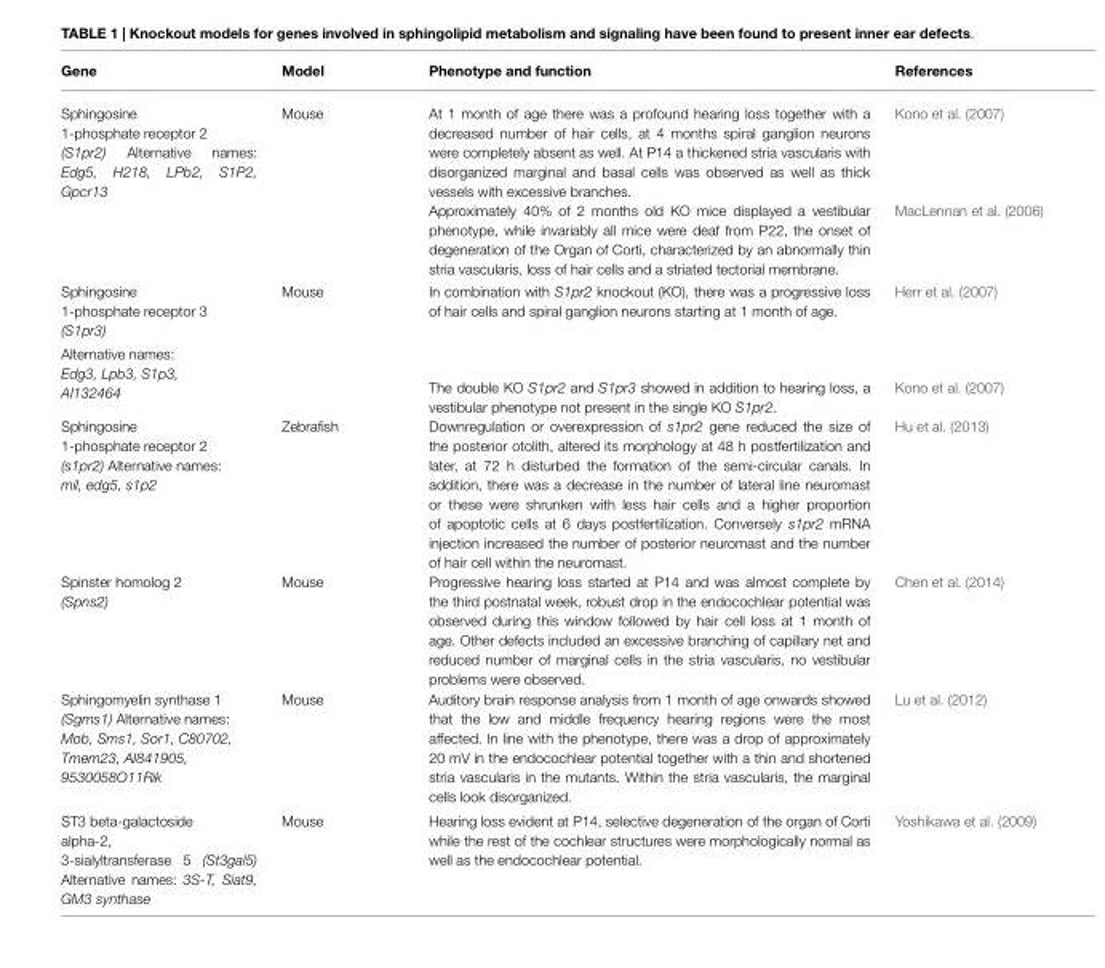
<table><thead><tr><td>Gene</td><td>Model</td><td>Phenotype and function</td><td>References</td></tr></thead><tbody><tr><td rowspan="2">Sphingosine 1-phosphate receptor 2 (S1pr2) Alternative names: Edg5, H218, LPb2, S1P2, Gpcr13</td><td>Mouse</td><td>At 1 month of age there was a profound hearing loss together with a decreased number of hair cells, at 4 months spiral ganglion neurons were completely absent as well. At P14 a thickened stria vascularis with disorganized marginal and basal cells was observed as well as thick vessels with excessive branches.</td><td>Kono et al. (2007)</td></tr><tr><td></td><td>Approximately 40% of 2 months old KO mice displayed a vestibular phenotype, while invariably all mice were deaf from P22, the onset of degeneration of the Organ of Corti, characterized by an abnormally thin stria vascularis, loss of hair cells and a striated tectorial membrane.</td><td>MacLennan et al. (2006)</td></tr><tr><td rowspan="2">Sphingosine 1-phosphate receptor 3 (S1pr3) Alternative names: Edg3, Lpb3, S1p3, AI132464</td><td>Mouse</td><td>In combination with S1pr2 knockout (KO), there was a progressive loss of hair cells and spiral ganglion neurons starting at 1 month of age.</td><td>Herr et al. (2007)</td></tr><tr><td></td><td>The double KO S1pr2 and S1pr3 showed in addition to hearing loss, a vestibular phenotype not present in the single KO S1pr2.</td><td>Kono et al. (2007)</td></tr><tr><td>Sphingosine 1-phosphate receptor 2 (s1pr2) Alternative names: mil, edg5, s1p2</td><td>Zebrafish</td><td>Downregulation or overexpression of s1pr2 gene reduced the size of the posterior otolith, altered its morphology at 48 h postfertilization and later, at 72 h disturbed the formation of the semi-circular canals. In addition, there was a decrease in the number of lateral line neuromast or these were shrunken with less hair cells and a higher proportion of apoptotic cells at 6 days postfertilization. Conversely s1pr2 mRNA injection increased the number of posterior neuromast and the number of hair cell within the neuromast.</td><td>Hu et al. (2013)</td></tr><tr><td>Spinster homolog 2 (Spns2)</td><td>Mouse</td><td>Progressive hearing loss started at P14 and was almost complete by the third postnatal week, robust drop in the endocochlear potential was observed during this window followed by hair cell loss at 1 month of age. Other defects included an excessive branching of capillary net and reduced number of marginal cells in the stria vascularis, no vestibular problems were observed.</td><td>Chen et al. (2014)</td></tr><tr><td>Sphingomyelin synthase 1 (Sgms1) Alternative names: Mob, Sms1, Sor1, C80702, Tmem23, AI841905, 9530058O11Rik</td><td>Mouse</td><td>Auditory brain response analysis from 1 month of age onwards showed that the low and middle frequency hearing regions were the most affected. In line with the phenotype, there was a drop of approximately 20 mV in the endocochlear potential together with a thin and shortened stria vascularis in the mutants. Within the stria vascularis, the marginal cells look disorganized.</td><td>Lu et al. (2012)</td></tr><tr><td>ST3 beta-galactoside alpha-2, 3-sialyltransferase 5 (St3gal5) Alternative names: 3S-T, Siat9, GM3 synthase</td><td>Mouse</td><td>Hearing loss evident at P14, selective degeneration of the organ of Corti while the rest of the cochlear structures were morphologically normal as well as the endocochlear potential.</td><td>Yoshikawa et al. (2009)</td></tr></tbody></table>